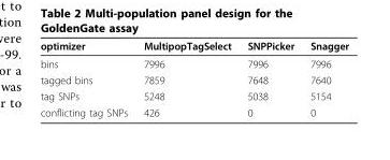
<table><thead><tr><td>optimizer</td><td>MultipopTagSelect</td><td>SNPPicker</td><td>Snagger</td></tr></thead><tbody><tr><td>bins</td><td>7996</td><td>7996</td><td>7996</td></tr><tr><td>tagged bins</td><td>7859</td><td>7648</td><td>7640</td></tr><tr><td>tag SNPs</td><td>5248</td><td>5038</td><td>5154</td></tr><tr><td>conflicting tag SNPs</td><td>426</td><td>0</td><td>0</td></tr></tbody></table>